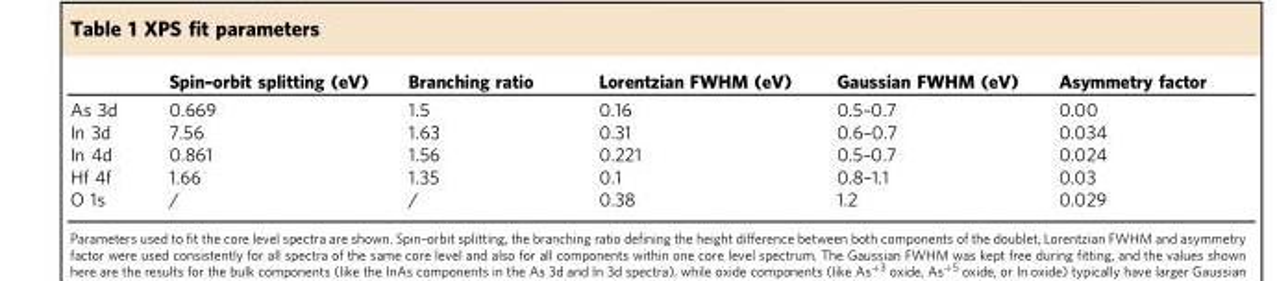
<table><thead><tr><td></td><td>Spin–orbit splitting (eV)</td><td>Branching ratio</td><td>Lorentzian FWHM (eV)</td><td>Gaussian FWHM (eV)</td><td>Asymmetry factor</td></tr></thead><tbody><tr><td>As 3d</td><td>0.669</td><td>1.5</td><td>0.16</td><td>0.5–0.7</td><td>0.00</td></tr><tr><td>In 3d</td><td>7.56</td><td>1.63</td><td>0.31</td><td>0.6–0.7</td><td>0.034</td></tr><tr><td>In 4d</td><td>0.861</td><td>1.56</td><td>0.221</td><td>0.5–0.7</td><td>0.024</td></tr><tr><td>Hf 4f</td><td>1.66</td><td>1.35</td><td>0.1</td><td>0.8–1.1</td><td>0.03</td></tr><tr><td>O 1s</td><td>/</td><td>/</td><td>0.38</td><td>1.2</td><td>0.029</td></tr></tbody></table>